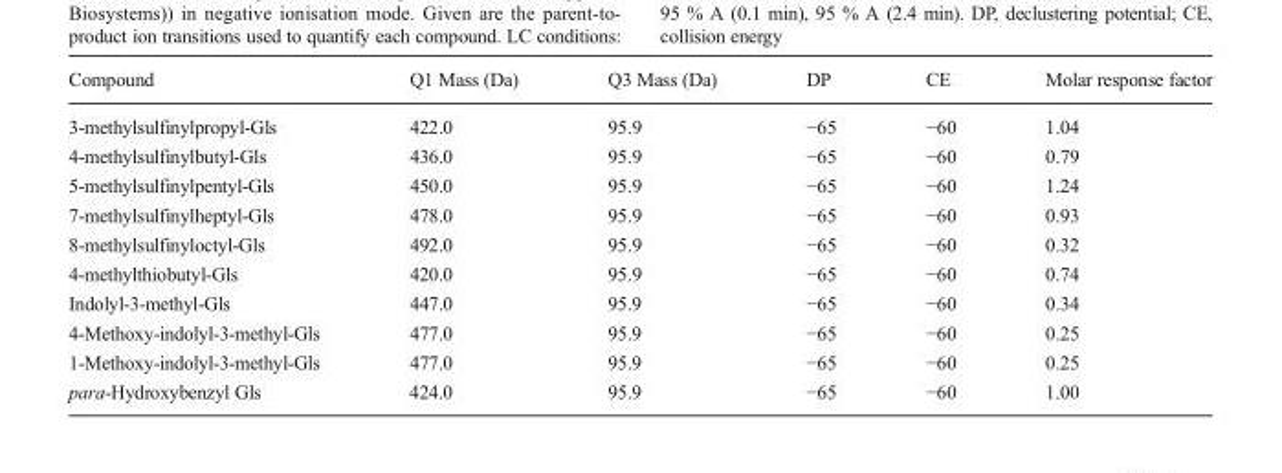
<table><thead><tr><td>Compound</td><td>Q1 Mass (Da)</td><td>Q3 Mass (Da)</td><td>DP</td><td>CE</td><td>Molar response factor</td></tr></thead><tbody><tr><td>3-methylsulfinylpropyl-Gls</td><td>422.0</td><td>95.9</td><td>−65</td><td>−60</td><td>1.04</td></tr><tr><td>4-methylsulfinylbutyl-Gls</td><td>436.0</td><td>95.9</td><td>−65</td><td>−60</td><td>0.79</td></tr><tr><td>5-methylsulfinylpentyl-Gls</td><td>450.0</td><td>95.9</td><td>−65</td><td>−60</td><td>1.24</td></tr><tr><td>7-methylsulfinylheptyl-Gls</td><td>478.0</td><td>95.9</td><td>−65</td><td>−60</td><td>0.93</td></tr><tr><td>8-methylsulfinyloctyl-Gls</td><td>492.0</td><td>95.9</td><td>−65</td><td>−60</td><td>0.32</td></tr><tr><td>4-methylthiobutyl-Gls</td><td>420.0</td><td>95.9</td><td>−65</td><td>−60</td><td>0.74</td></tr><tr><td>Indolyl-3-methyl-Gls</td><td>447.0</td><td>95.9</td><td>−65</td><td>−60</td><td>0.34</td></tr><tr><td>4-Methoxy-indolyl-3-methyl-Gls</td><td>477.0</td><td>95.9</td><td>−65</td><td>−60</td><td>0.25</td></tr><tr><td>1-Methoxy-indolyl-3-methyl-Gls</td><td>477.0</td><td>95.9</td><td>−65</td><td>−60</td><td>0.25</td></tr><tr><td>para-Hydroxybenzyl Gls</td><td>424.0</td><td>95.9</td><td>−65</td><td>−60</td><td>1.00</td></tr></tbody></table>